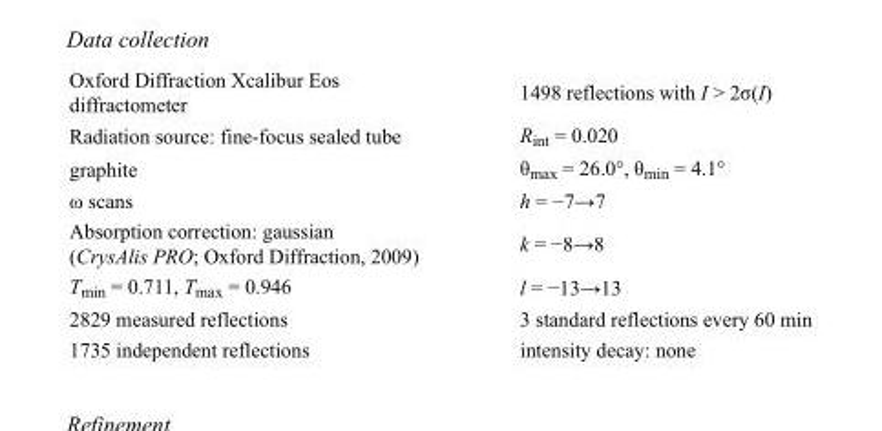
<table><tbody><tr><td>Oxford Diffraction Xcalibur Eos diffractometer</td><td>1498 reflections with I &gt; 2σ(I)</td></tr><tr><td>Radiation source: fine-focus sealed tube</td><td>R<sub>int</sub> = 0.020</td></tr><tr><td>graphite</td><td>θ<sub>max</sub> = 26.0°, θ<sub>min</sub> = 4.1°</td></tr><tr><td>ω scans</td><td>h = −7→7</td></tr><tr><td>Absorption correction: gaussian (CrysAlis PRO; Oxford Diffraction, 2009)</td><td>k = −8→8</td></tr><tr><td>T<sub>min</sub> = 0.711, T<sub>max</sub> = 0.946</td><td>l = −13→13</td></tr><tr><td>2829 measured reflections</td><td>3 standard reflections every 60 min</td></tr><tr><td>1735 independent reflections</td><td>intensity decay: none</td></tr></tbody></table>